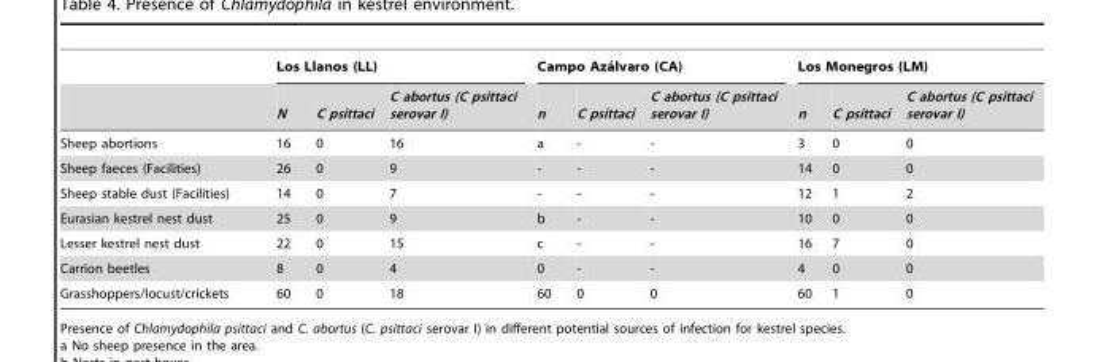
<table><thead><tr><td rowspan="2"></td><td colspan="3">Los Llanos (LL)</td><td colspan="3">Campo Aza´lvaro (CA)</td><td colspan="3">Los Monegros (LM)</td></tr><tr><td>N</td><td>C psittaci</td><td>C abortus (C psittaci serovar I)</td><td>n</td><td>C psittaci</td><td>C abortus (C psittaci serovar I)</td><td>n</td><td>C psittaci</td><td>C abortus (C psittaci serovar I)</td></tr></thead><tbody><tr><td>Sheep abortions</td><td>16</td><td>0</td><td>16</td><td>a</td><td>-</td><td>-</td><td>3</td><td>0</td><td>0</td></tr><tr><td>Sheep faeces (Facilities)</td><td>26</td><td>0</td><td>9</td><td>-</td><td>-</td><td>-</td><td>14</td><td>0</td><td>0</td></tr><tr><td>Sheep stable dust (Facilities)</td><td>14</td><td>0</td><td>7</td><td>-</td><td>-</td><td>-</td><td>12</td><td>1</td><td>2</td></tr><tr><td>Eurasian kestrel nest dust</td><td>25</td><td>0</td><td>9</td><td>b</td><td>-</td><td>-</td><td>10</td><td>0</td><td>0</td></tr><tr><td>Lesser kestrel nest dust</td><td>22</td><td>0</td><td>15</td><td>c</td><td>-</td><td>-</td><td>16</td><td>7</td><td>0</td></tr><tr><td>Carrion beetles</td><td>8</td><td>0</td><td>4</td><td>0</td><td>-</td><td>-</td><td>4</td><td>0</td><td>0</td></tr><tr><td>Grasshoppers/locust/crickets</td><td>60</td><td>0</td><td>18</td><td>60</td><td>0</td><td>0</td><td>60</td><td>1</td><td>0</td></tr></tbody></table>